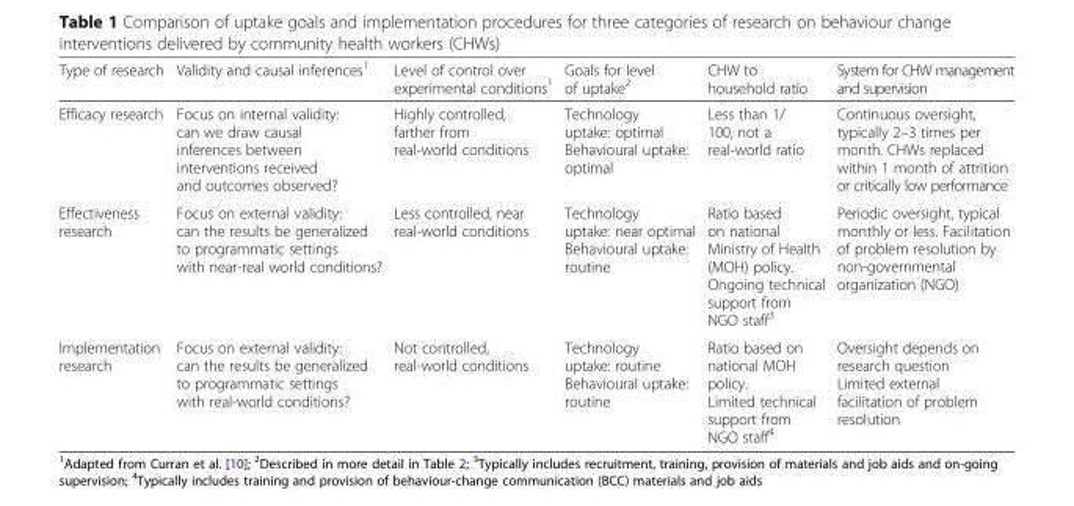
<table><thead><tr><td>Type of research</td><td>Validity and causal inferences<sup>1</sup></td><td>Level of control over experimental conditions<sup>1</sup></td><td>Goals for level of uptake<sup>2</sup></td><td>CHW to household ratio</td><td>System for CHW management and supervision</td></tr></thead><tbody><tr><td>Efficacy research</td><td>Focus on internal validity: can we draw causal inferences between interventions received and outcomes observed?</td><td>Highly controlled, farther from real-world conditions</td><td>Technology uptake: optimal Behavioural uptake: optimal</td><td>Less than 1/ 100, not a real-world ratio</td><td>Continuous oversight, typically 2–3 times per month. CHWs replaced within 1 month of attrition or critically low performance</td></tr><tr><td>Effectiveness research</td><td>Focus on external validity: can the results be generalized to programmatic settings with near-real world conditions?</td><td>Less controlled, near real-world conditions</td><td>Technology uptake: near optimal Behavioural uptake: routine</td><td>Ratio based on national Ministry of Health (MOH) policy. Ongoing technical support from NGO staff<sup>3</sup></td><td>Periodic oversight, typical monthly or less. Facilitation of problem resolution by non-governmental organization (NGO)</td></tr><tr><td>Implementation research</td><td>Focus on external validity: can the results be generalized to programmatic settings with real-world conditions?</td><td>Not controlled, real-world conditions</td><td>Technology uptake: routine Behavioural uptake: routine</td><td>Ratio based on national MOH policy. Limited technical support from NGO staff<sup>4</sup></td><td>Oversight depends on research question Limited external facilitation of problem resolution</td></tr></tbody></table>